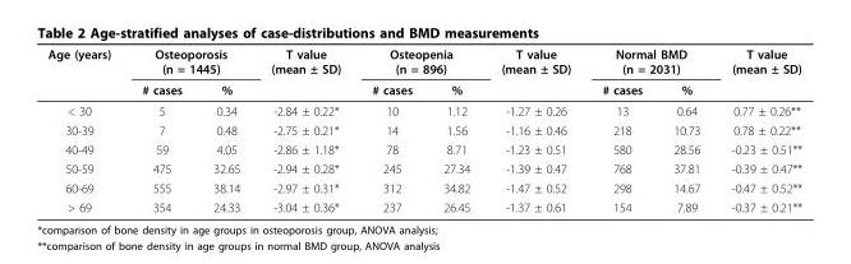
<table><thead><tr><td rowspan="2">Age (years)</td><td colspan="2">Osteoporosis (n = 1445)</td><td rowspan="2">T value (mean ± SD)</td><td colspan="2">Osteopenia (n = 896)</td><td rowspan="2">T value (mean ± SD)</td><td colspan="2">Normal BMD (n = 2031)</td><td rowspan="2">T value (mean ± SD)</td></tr><tr><td># cases</td><td>%</td><td># cases</td><td>%</td><td># cases</td><td>%</td></tr></thead><tbody><tr><td>&lt; 30</td><td>5</td><td>0.34</td><td>-2.84 ± 0.22*</td><td>10</td><td>1.12</td><td>-1.27 ± 0.26</td><td>13</td><td>0.64</td><td>0.77 ± 0.26**</td></tr><tr><td>30-39</td><td>7</td><td>0.48</td><td>-2.75 ± 0.21*</td><td>14</td><td>1.56</td><td>-1.16 ± 0.46</td><td>218</td><td>10.73</td><td>0.78 ± 0.22**</td></tr><tr><td>40-49</td><td>59</td><td>4.05</td><td>-2.86 ± 1.18*</td><td>78</td><td>8.71</td><td>-1.23 ± 0.51</td><td>580</td><td>28.56</td><td>-0.23 ± 0.51**</td></tr><tr><td>50-59</td><td>475</td><td>32.65</td><td>-2.94 ± 0.28*</td><td>245</td><td>27.34</td><td>-1.39 ± 0.47</td><td>768</td><td>37.81</td><td>-0.39 ± 0.47**</td></tr><tr><td>60-69</td><td>555</td><td>38.14</td><td>-2.97 ± 0.31*</td><td>312</td><td>34.82</td><td>-1.47 ± 0.52</td><td>298</td><td>14.67</td><td>-0.47 ± 0.52**</td></tr><tr><td>&gt; 69</td><td>354</td><td>24.33</td><td>-3.04 ± 0.36*</td><td>237</td><td>26.45</td><td>-1.37 ± 0.61</td><td>154</td><td>7.89</td><td>-0.37 ± 0.21**</td></tr></tbody></table>